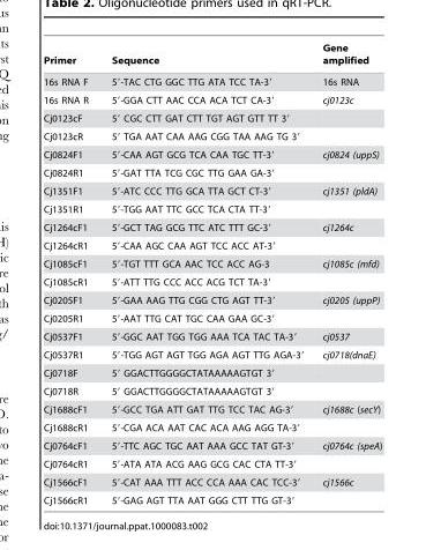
<table><thead><tr><td>Primer</td><td>Sequence</td><td>Gene amplified</td></tr></thead><tbody><tr><td>16s RNA F</td><td>5′-TAC CTG GGC TTG ATA TCC TA-3′</td><td>16s RNA</td></tr><tr><td>16s RNA R</td><td>5′-GGA CTT AAC CCA ACA TCT CA-3′</td><td>cj0123c</td></tr><tr><td>Cj0123cF</td><td>5′ CGC CTT GAT CTT TGT AGT GTT TT 3′</td><td></td></tr><tr><td>Cj0123cR</td><td>5′ TGA AAT CAA AAG CGG TAA AAG TG 3′</td><td></td></tr><tr><td>Cj0824F1</td><td>5′-CAA AGT GCG TCA CAA TGC TT-3′</td><td>cj0824 (uppS)</td></tr><tr><td>Cj0824R1</td><td>5′-GAT TTA TCG CGC TTG GAA GA-3′</td><td></td></tr><tr><td>Cj1351F1</td><td>5′-ATC CCC TTG GCA TTA GCT CT-3′</td><td>cj1351 (pldA)</td></tr><tr><td>Cj1351R1</td><td>5′-TGG AAT TTC GCC TCA CTA TT-3′</td><td></td></tr><tr><td>Cj1264cF1</td><td>5′-GCT TAG GCG TTC ATC TTT GC-3′</td><td>cj1264c</td></tr><tr><td>Cj1264cR1</td><td>5′-CAA AGC CAA AGT TCC ACC AT-3′</td><td></td></tr><tr><td>Cj1085cF1</td><td>5′-TGT TTT GCA AAC TCC ACC AG-3</td><td>cj1085c (mfd)</td></tr><tr><td>Cj1085cR1</td><td>5′-ATT TTG CCC ACC ACG TCT TA-3′</td><td></td></tr><tr><td>Cj0205F1</td><td>5′-GAA AAG TTG CGG CTG AGT TT-3′</td><td>cj0205 (uppP)</td></tr><tr><td>Cj0205R1</td><td>5′-AAT TTG CAT TGC CAA GAA GC-3′</td><td></td></tr><tr><td>Cj0537F1</td><td>5′-GGC AAT TGG TGG AAA TCA TAC TA-3′</td><td>cj0537</td></tr><tr><td>Cj0537R1</td><td>5′-TGG AGT AGT TGG AGA AGT TTG AGA-3′</td><td>cj0718(dnaE)</td></tr><tr><td>Cj0718F</td><td>5′ GGACTTGGGGCTATAAAAAGTGT 3′</td><td></td></tr><tr><td>Cj0718R</td><td>5′ GGACTTGGGGCTATAAAAAGTGT 3′</td><td></td></tr><tr><td>Cj1688cF1</td><td>5′-GCC TGA ATT GAT TTG TCC TAC AG-3′</td><td>cj1688c (secY)</td></tr><tr><td>Cj1688cR1</td><td>5′-CGA ACA AAT CAC ACA AAG AGG TA-3′</td><td></td></tr><tr><td>Cj0764cF1</td><td>5′-TTC AGC TGC AAT AAA GCC TAT GT-3′</td><td>cj0764c (speA)</td></tr><tr><td>Cj0764cR1</td><td>5′-ATA ATA ACG AAG GCG CAC CTA TT-3′</td><td></td></tr><tr><td>Cj1566cF1</td><td>5′-CAT AAA TTT ACC CCA AAA CAC TCC-3′</td><td>cj1566c</td></tr><tr><td>Cj1566cR1</td><td>5′-GAG AGT TTA AAT GGG CTT TTG GT-3′</td><td></td></tr></tbody></table>